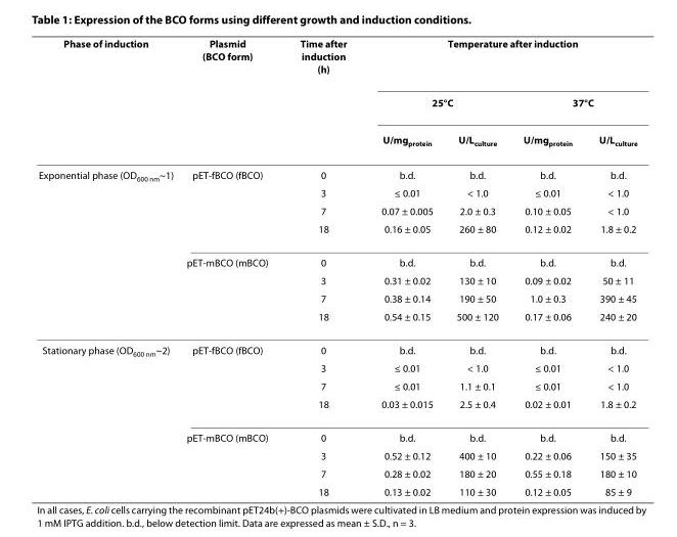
<table><thead><tr><td rowspan="3">Phase of induction</td><td rowspan="3">Plasmid (BCO form)</td><td rowspan="3">Time after induction (h)</td><td colspan="4">Temperature after induction</td></tr><tr><td colspan="2">25°C</td><td colspan="2">37°C</td></tr><tr><td>U/mg<sub>protein</sub></td><td>U/L<sub>culture</sub></td><td>U/mg<sub>protein</sub></td><td>U/L<sub>culture</sub></td></tr></thead><tbody><tr><td rowspan="8">Exponential phase (OD<sub>600 nm</sub>~1)</td><td>pET-fBCO (fBCO)</td><td>0</td><td>b.d.</td><td>b.d.</td><td>b.d.</td><td>b.d.</td></tr><tr><td></td><td>3</td><td>≤ 0.01</td><td>&lt; 1.0</td><td>≤ 0.01</td><td>&lt; 1.0</td></tr><tr><td></td><td>7</td><td>0.07 ± 0.005</td><td>2.0 ± 0.3</td><td>0.10 ± 0.05</td><td>&lt; 1.0</td></tr><tr><td></td><td>18</td><td>0.16 ± 0.05</td><td>260 ± 80</td><td>0.12 ± 0.02</td><td>1.8 ± 0.2</td></tr><tr><td>pET-mBCO (mBCO)</td><td>0</td><td>b.d.</td><td>b.d.</td><td>b.d.</td><td>b.d.</td></tr><tr><td></td><td>3</td><td>0.31 ± 0.02</td><td>130 ± 10</td><td>0.09 ± 0.02</td><td>50 ± 11</td></tr><tr><td></td><td>7</td><td>0.38 ± 0.14</td><td>190 ± 50</td><td>1.0 ± 0.3</td><td>390 ± 45</td></tr><tr><td></td><td>18</td><td>0.54 ± 0.15</td><td>500 ± 120</td><td>0.17 ± 0.06</td><td>240 ± 20</td></tr><tr><td rowspan="8">Stationary phase (OD<sub>600 nm</sub>~2)</td><td>pET-fBCO (fBCO)</td><td>0</td><td>b.d.</td><td>b.d.</td><td>b.d.</td><td>b.d.</td></tr><tr><td></td><td>3</td><td>≤ 0.01</td><td>&lt; 1.0</td><td>≤ 0.01</td><td>&lt; 1.0</td></tr><tr><td></td><td>7</td><td>≤ 0.01</td><td>1.1 ± 0.1</td><td>≤ 0.01</td><td>&lt; 1.0</td></tr><tr><td></td><td>18</td><td>0.03 ± 0.015</td><td>2.5 ± 0.4</td><td>0.02 ± 0.01</td><td>1.8 ± 0.2</td></tr><tr><td>pET-mBCO (mBCO)</td><td>0</td><td>b.d.</td><td>b.d.</td><td>b.d.</td><td>b.d.</td></tr><tr><td></td><td>3</td><td>0.52 ± 0.12</td><td>400 ± 10</td><td>0.22 ± 0.06</td><td>150 ± 35</td></tr><tr><td></td><td>7</td><td>0.28 ± 0.02</td><td>180 ± 20</td><td>0.55 ± 0.18</td><td>180 ± 10</td></tr><tr><td></td><td>18</td><td>0.13 ± 0.02</td><td>110 ± 30</td><td>0.12 ± 0.05</td><td>85 ± 9</td></tr></tbody></table>